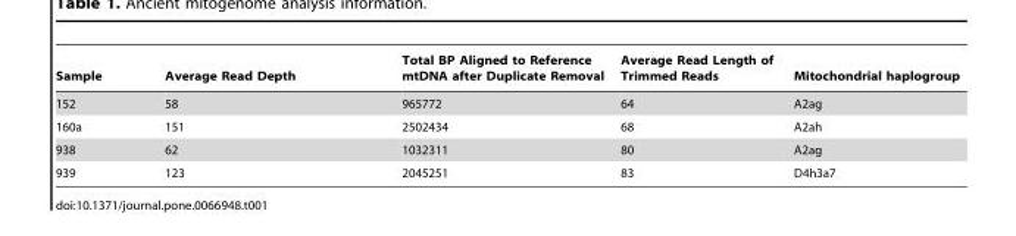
<table><thead><tr><td>Sample</td><td>Average Read Depth</td><td>Total BP Aligned to Reference mtDNA after Duplicate Removal</td><td>Average Read Length of Trimmed Reads</td><td>Mitochondrial haplogroup</td></tr></thead><tbody><tr><td>152</td><td>58</td><td>965772</td><td>64</td><td>A2ag</td></tr><tr><td>160a</td><td>151</td><td>2502434</td><td>68</td><td>A2ah</td></tr><tr><td>938</td><td>62</td><td>1032311</td><td>80</td><td>A2ag</td></tr><tr><td>939</td><td>123</td><td>2045251</td><td>83</td><td>D4h3a7</td></tr></tbody></table>